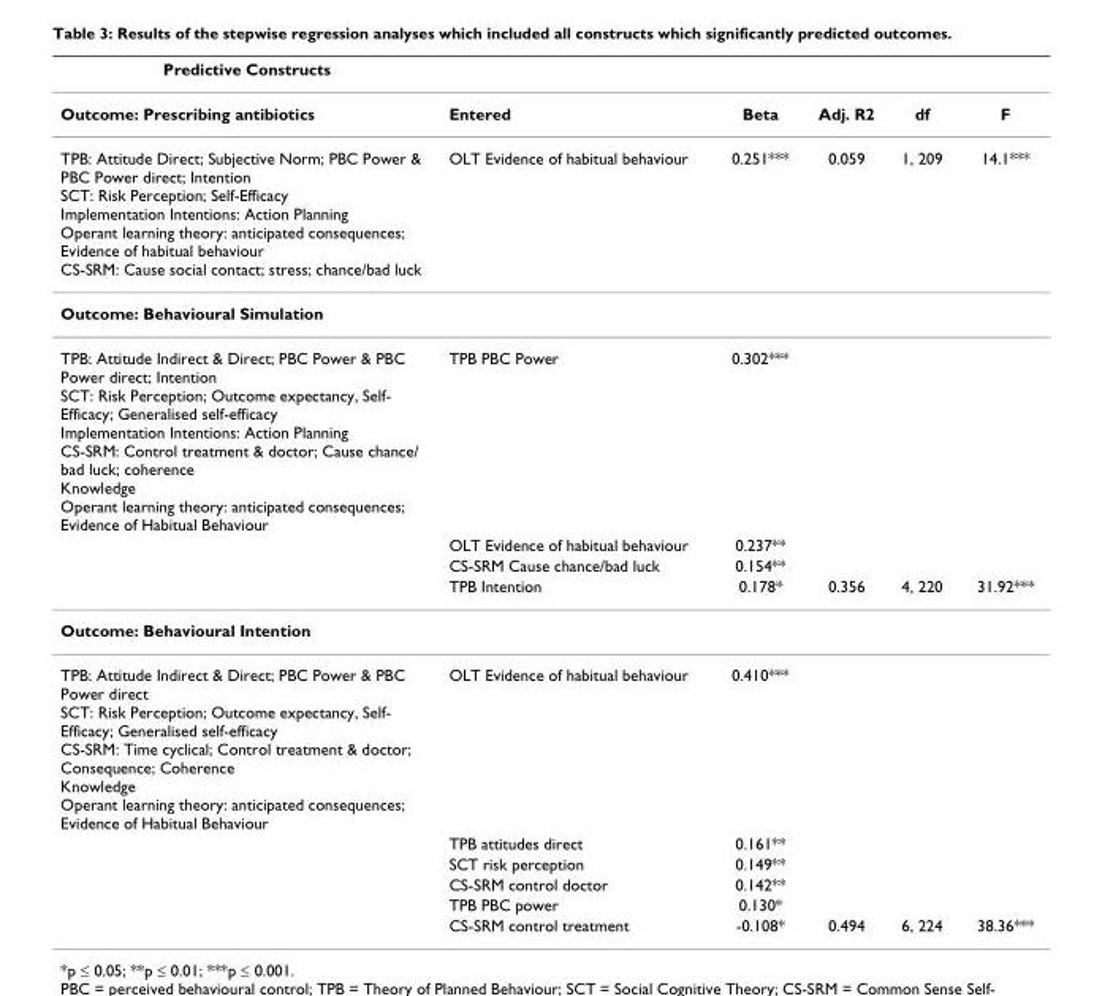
<table><thead><tr><td>Predictive Constructs</td><td></td><td></td><td></td><td></td><td></td></tr></thead><tbody><tr><td>Outcome: Prescribing antibiotics</td><td>Entered</td><td>Beta</td><td>Adj. R2</td><td>df</td><td>F</td></tr><tr><td>TPB: Attitude Direct; Subjective Norm; PBC Power &amp; PBC Power direct; Intention SCT: Risk Perception; Self-Efficacy Implementation Intentions: Action Planning Operant learning theory: anticipated consequences; Evidence of habitual behaviour CS-SRM: Cause social contact; stress; chance/bad luck</td><td>OLT Evidence of habitual behaviour</td><td>0.251***</td><td>0.059</td><td>1, 209</td><td>14.1***</td></tr><tr><td colspan="6">Outcome: Behavioural Simulation</td></tr><tr><td rowspan="4">TPB: Attitude Indirect &amp; Direct; PBC Power &amp; PBC Power direct; Intention SCT: Risk Perception; Outcome expectancy, Self- Efficacy; Generalised self-efficacy Implementation Intentions: Action Planning CS-SRM: Control treatment &amp; doctor; Cause chance/ bad luck; coherence Knowledge Operant learning theory: anticipated consequences; Evidence of Habitual Behaviour</td><td>TPB PBC Power</td><td>0.302***</td><td></td><td></td><td></td></tr><tr><td>OLT Evidence of habitual behaviour</td><td>0.237**</td><td></td><td></td><td></td></tr><tr><td>CS-SRM Cause chance/bad luck</td><td>0.154**</td><td></td><td></td><td></td></tr><tr><td>TPB Intention</td><td>0.178*</td><td>0.356</td><td>4, 220</td><td>31.92***</td></tr><tr><td colspan="6">Outcome: Behavioural Intention</td></tr><tr><td rowspan="6">TPB: Attitude Indirect &amp; Direct; PBC Power &amp; PBC Power direct SCT: Risk Perception; Outcome expectancy, Self- Efficacy; Generalised self-efficacy CS-SRM: Time cyclical; Control treatment &amp; doctor; Consequence; Coherence Knowledge Operant learning theory: anticipated consequences; Evidence of Habitual Behaviour</td><td>OLT Evidence of habitual behaviour</td><td>0.410***</td><td></td><td></td><td></td></tr><tr><td>TPB attitudes direct</td><td>0.161**</td><td></td><td></td><td></td></tr><tr><td>SCT risk perception</td><td>0.149**</td><td></td><td></td><td></td></tr><tr><td>CS-SRM control doctor</td><td>0.142**</td><td></td><td></td><td></td></tr><tr><td>TPB PBC power</td><td>0.130*</td><td></td><td></td><td></td></tr><tr><td>CS-SRM control treatment</td><td>-0.108*</td><td>0.494</td><td>6, 224</td><td>38.36***</td></tr></tbody></table>